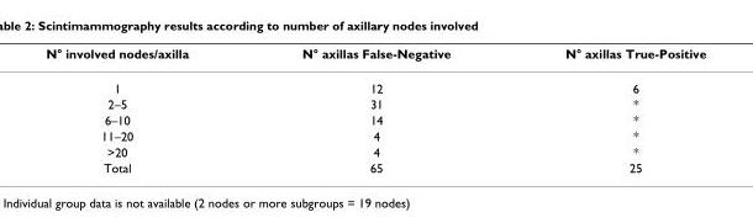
<table><thead><tr><td>N° involved nodes/axilla</td><td>N° axillas False-Negative</td><td>N° axillas True-Positive</td></tr></thead><tbody><tr><td>1</td><td>12</td><td>6</td></tr><tr><td>2–5</td><td>31</td><td>*</td></tr><tr><td>6–10</td><td>14</td><td>*</td></tr><tr><td>11–20</td><td>4</td><td>*</td></tr><tr><td>&gt;20</td><td>4</td><td>*</td></tr><tr><td>Total</td><td>65</td><td>25</td></tr></tbody></table>